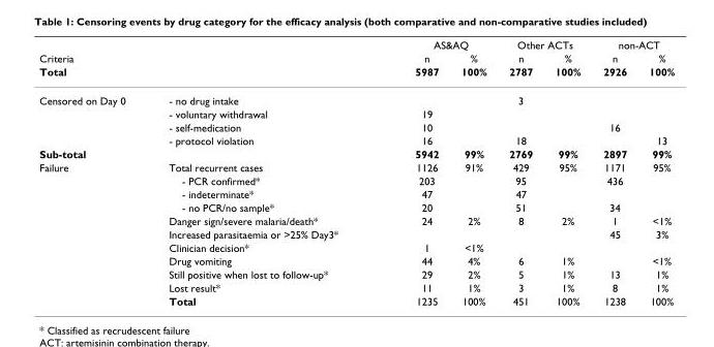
<table><thead><tr><td rowspan="3">Criteria Total</td><td rowspan="3"></td><td colspan="2">AS&amp;AQ</td><td colspan="2">Other ACTs</td><td colspan="2">non-ACT</td></tr><tr><td rowspan="2">n 5987</td><td rowspan="2">% 100%</td><td rowspan="2">n 2787</td><td rowspan="2">% 100%</td><td rowspan="2">n 2926</td><td rowspan="2">% 100%</td></tr><tr></tr></thead><tbody><tr><td rowspan="4">Censored on Day 0</td><td>- no drug intake</td><td></td><td></td><td>3</td><td></td><td></td><td></td></tr><tr><td>- voluntary withdrawal</td><td>19</td><td></td><td></td><td></td><td></td><td></td></tr><tr><td>- self-medication</td><td>10</td><td></td><td></td><td></td><td>16</td><td></td></tr><tr><td>- protocol violation</td><td>16</td><td></td><td>18</td><td></td><td></td><td>13</td></tr><tr><td>Sub-total</td><td></td><td>5942</td><td>99%</td><td>2769</td><td>99%</td><td>2897</td><td>99%</td></tr><tr><td rowspan="11">Failure</td><td>Total recurrent cases</td><td>1126</td><td>91%</td><td>429</td><td>95%</td><td>1171</td><td>95%</td></tr><tr><td>- PCR confirmed*</td><td>203</td><td></td><td>95</td><td></td><td>436</td><td></td></tr><tr><td>- indeterminate*</td><td>47</td><td></td><td>47</td><td></td><td></td><td></td></tr><tr><td>- no PCR/no sample*</td><td>20</td><td></td><td>51</td><td></td><td>34</td><td></td></tr><tr><td>Danger sign/severe malaria/death*</td><td>24</td><td>2%</td><td>8</td><td>2%</td><td>1</td><td>&lt;1%</td></tr><tr><td>Increased parasitaemia or &gt;25% Day3*</td><td></td><td></td><td></td><td></td><td>45</td><td>3%</td></tr><tr><td>Clinician decision*</td><td>1</td><td>&lt;1%</td><td></td><td></td><td></td><td></td></tr><tr><td>Drug vomiting</td><td>44</td><td>4%</td><td>6</td><td>1%</td><td></td><td>&lt;1%</td></tr><tr><td>Still positive when lost to follow-up*</td><td>29</td><td>2%</td><td>5</td><td>1%</td><td>13</td><td>1%</td></tr><tr><td>Lost result*</td><td>11</td><td>1%</td><td>3</td><td>1%</td><td>8</td><td>1%</td></tr><tr><td>Total</td><td>1235</td><td>100%</td><td>451</td><td>100%</td><td>1238</td><td>100%</td></tr></tbody></table>